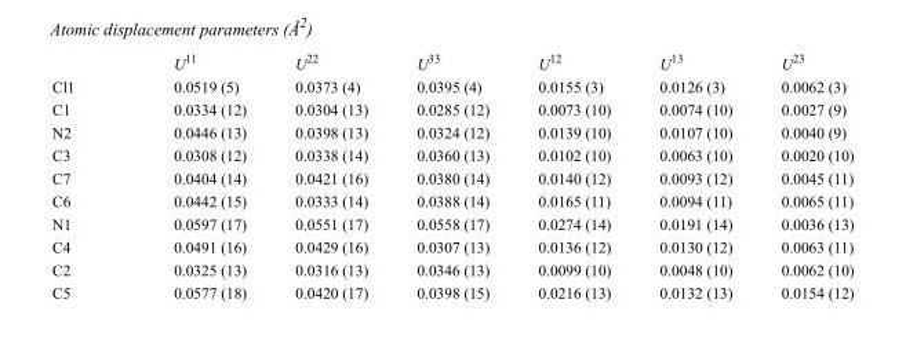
<table><thead><tr><td></td><td>U<sup>11</sup></td><td>U<sup>22</sup></td><td>U<sup>33</sup></td><td>U<sup>12</sup></td><td>U<sup>13</sup></td><td>U<sup>23</sup></td></tr></thead><tbody><tr><td>Cl1</td><td>0.0519 (5)</td><td>0.0373 (4)</td><td>0.0395 (4)</td><td>0.0155 (3)</td><td>0.0126 (3)</td><td>0.0062 (3)</td></tr><tr><td>C1</td><td>0.0334 (12)</td><td>0.0304 (13)</td><td>0.0285 (12)</td><td>0.0073 (10)</td><td>0.0074 (10)</td><td>0.0027 (9)</td></tr><tr><td>N2</td><td>0.0446 (13)</td><td>0.0398 (13)</td><td>0.0324 (12)</td><td>0.0139 (10)</td><td>0.0107 (10)</td><td>0.0040 (9)</td></tr><tr><td>C3</td><td>0.0308 (12)</td><td>0.0338 (14)</td><td>0.0360 (13)</td><td>0.0102 (10)</td><td>0.0063 (10)</td><td>0.0020 (10)</td></tr><tr><td>C7</td><td>0.0404 (14)</td><td>0.0421 (16)</td><td>0.0380 (14)</td><td>0.0140 (12)</td><td>0.0093 (12)</td><td>0.0045 (11)</td></tr><tr><td>C6</td><td>0.0442 (15)</td><td>0.0333 (14)</td><td>0.0388 (14)</td><td>0.0165 (11)</td><td>0.0094 (11)</td><td>0.0065 (11)</td></tr><tr><td>N1</td><td>0.0597 (17)</td><td>0.0551 (17)</td><td>0.0558 (17)</td><td>0.0274 (14)</td><td>0.0191 (14)</td><td>0.0036 (13)</td></tr><tr><td>C4</td><td>0.0491 (16)</td><td>0.0429 (16)</td><td>0.0307 (13)</td><td>0.0136 (12)</td><td>0.0130 (12)</td><td>0.0063 (11)</td></tr><tr><td>C2</td><td>0.0325 (13)</td><td>0.0316 (13)</td><td>0.0346 (13)</td><td>0.0099 (10)</td><td>0.0048 (10)</td><td>0.0062 (10)</td></tr><tr><td>C5</td><td>0.0577 (18)</td><td>0.0420 (17)</td><td>0.0398 (15)</td><td>0.0216 (13)</td><td>0.0132 (13)</td><td>0.0154 (12)</td></tr></tbody></table>